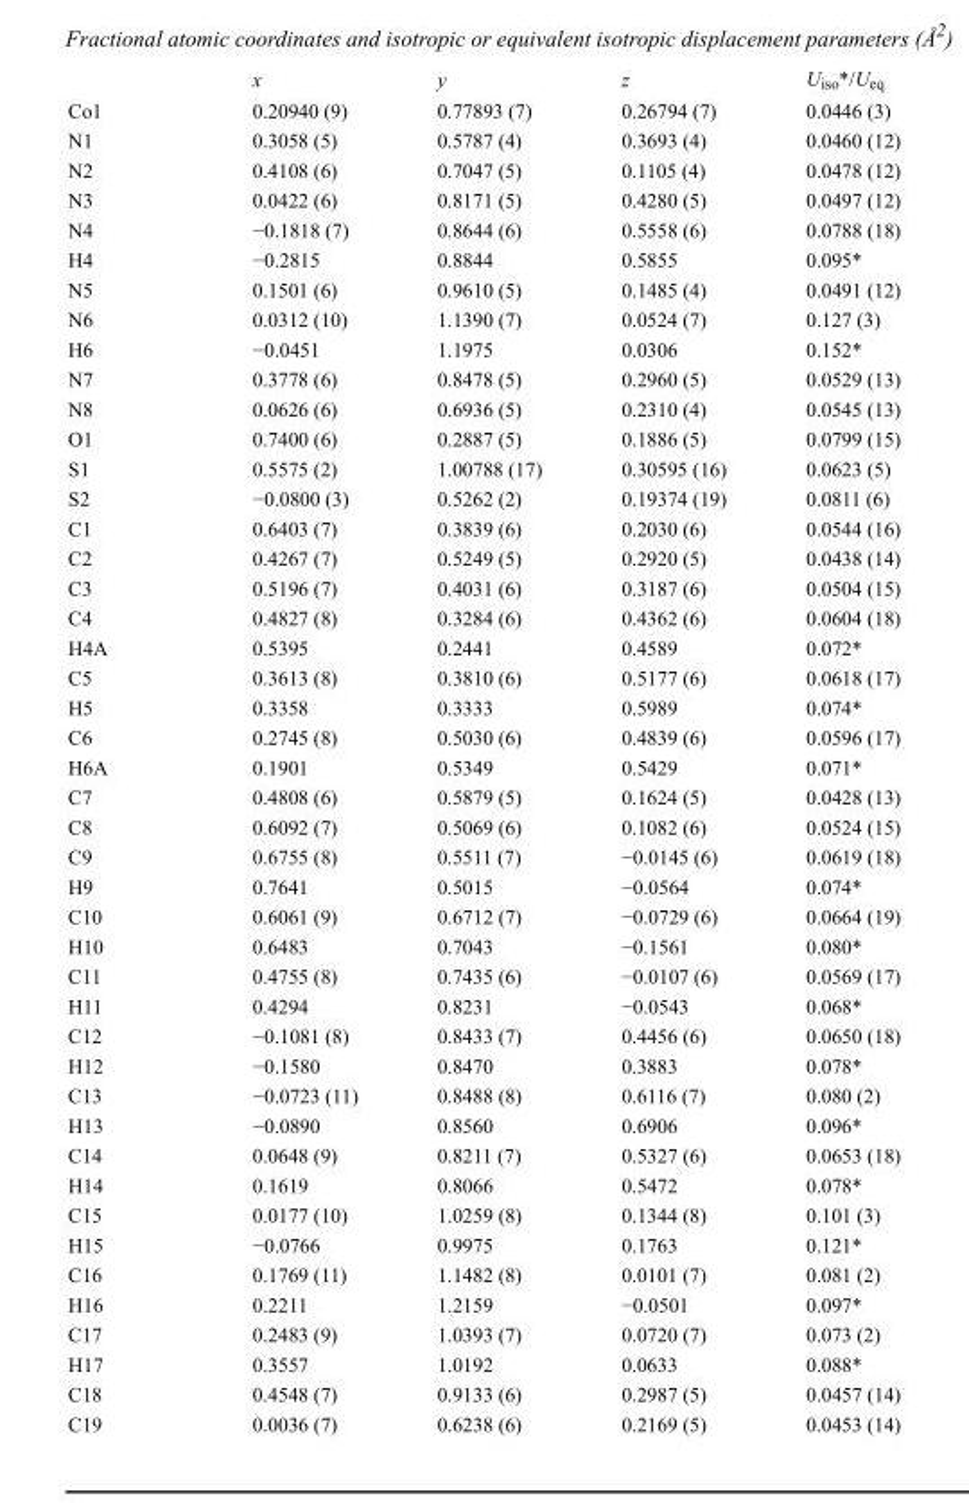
<table><thead><tr><td></td><td>x</td><td>y</td><td>z</td><td>U<sub>iso</sub>*/U<sub>eq</sub></td></tr></thead><tbody><tr><td>Co1</td><td>0.20940 (9)</td><td>0.77893 (7)</td><td>0.26794 (7)</td><td>0.0446 (3)</td></tr><tr><td>N1</td><td>0.3058 (5)</td><td>0.5787 (4)</td><td>0.3693 (4)</td><td>0.0460 (12)</td></tr><tr><td>N2</td><td>0.4108 (6)</td><td>0.7047 (5)</td><td>0.1105 (4)</td><td>0.0478 (12)</td></tr><tr><td>N3</td><td>0.0422 (6)</td><td>0.8171 (5)</td><td>0.4280 (5)</td><td>0.0497 (12)</td></tr><tr><td>N4</td><td>−0.1818 (7)</td><td>0.8644 (6)</td><td>0.5558 (6)</td><td>0.0788 (18)</td></tr><tr><td>H4</td><td>−0.2815</td><td>0.8844</td><td>0.5855</td><td>0.095*</td></tr><tr><td>N5</td><td>0.1501 (6)</td><td>0.9610 (5)</td><td>0.1485 (4)</td><td>0.0491 (12)</td></tr><tr><td>N6</td><td>0.0312 (10)</td><td>1.1390 (7)</td><td>0.0524 (7)</td><td>0.127 (3)</td></tr><tr><td>H6</td><td>−0.0451</td><td>1.1975</td><td>0.0306</td><td>0.152*</td></tr><tr><td>N7</td><td>0.3778 (6)</td><td>0.8478 (5)</td><td>0.2960 (5)</td><td>0.0529 (13)</td></tr><tr><td>N8</td><td>0.0626 (6)</td><td>0.6936 (5)</td><td>0.2310 (4)</td><td>0.0545 (13)</td></tr><tr><td>O1</td><td>0.7400 (6)</td><td>0.2887 (5)</td><td>0.1886 (5)</td><td>0.0799 (15)</td></tr><tr><td>S1</td><td>0.5575 (2)</td><td>1.00788 (17)</td><td>0.30595 (16)</td><td>0.0623 (5)</td></tr><tr><td>S2</td><td>−0.0800 (3)</td><td>0.5262 (2)</td><td>0.19374 (19)</td><td>0.0811 (6)</td></tr><tr><td>C1</td><td>0.6403 (7)</td><td>0.3839 (6)</td><td>0.2030 (6)</td><td>0.0544 (16)</td></tr><tr><td>C2</td><td>0.4267 (7)</td><td>0.5249 (5)</td><td>0.2920 (5)</td><td>0.0438 (14)</td></tr><tr><td>C3</td><td>0.5196 (7)</td><td>0.4031 (6)</td><td>0.3187 (6)</td><td>0.0504 (15)</td></tr><tr><td>C4</td><td>0.4827 (8)</td><td>0.3284 (6)</td><td>0.4362 (6)</td><td>0.0604 (18)</td></tr><tr><td>H4A</td><td>0.5395</td><td>0.2441</td><td>0.4589</td><td>0.072*</td></tr><tr><td>C5</td><td>0.3613 (8)</td><td>0.3810 (6)</td><td>0.5177 (6)</td><td>0.0618 (17)</td></tr><tr><td>H5</td><td>0.3358</td><td>0.3333</td><td>0.5989</td><td>0.074*</td></tr><tr><td>C6</td><td>0.2745 (8)</td><td>0.5030 (6)</td><td>0.4839 (6)</td><td>0.0596 (17)</td></tr><tr><td>H6A</td><td>0.1901</td><td>0.5349</td><td>0.5429</td><td>0.071*</td></tr><tr><td>C7</td><td>0.4808 (6)</td><td>0.5879 (5)</td><td>0.1624 (5)</td><td>0.0428 (13)</td></tr><tr><td>C8</td><td>0.6092 (7)</td><td>0.5069 (6)</td><td>0.1082 (6)</td><td>0.0524 (15)</td></tr><tr><td>C9</td><td>0.6755 (8)</td><td>0.5511 (7)</td><td>−0.0145 (6)</td><td>0.0619 (18)</td></tr><tr><td>H9</td><td>0.7641</td><td>0.5015</td><td>−0.0564</td><td>0.074*</td></tr><tr><td>C10</td><td>0.6061 (9)</td><td>0.6712 (7)</td><td>−0.0729 (6)</td><td>0.0664 (19)</td></tr><tr><td>H10</td><td>0.6483</td><td>0.7043</td><td>−0.1561</td><td>0.080*</td></tr><tr><td>C11</td><td>0.4755 (8)</td><td>0.7435 (6)</td><td>−0.0107 (6)</td><td>0.0569 (17)</td></tr><tr><td>H11</td><td>0.4294</td><td>0.8231</td><td>−0.0543</td><td>0.068*</td></tr><tr><td>C12</td><td>−0.1081 (8)</td><td>0.8433 (7)</td><td>0.4456 (6)</td><td>0.0650 (18)</td></tr><tr><td>H12</td><td>−0.1580</td><td>0.8470</td><td>0.3883</td><td>0.078*</td></tr><tr><td>C13</td><td>−0.0723 (11)</td><td>0.8488 (8)</td><td>0.6116 (7)</td><td>0.080 (2)</td></tr><tr><td>H13</td><td>−0.0890</td><td>0.8560</td><td>0.6906</td><td>0.096*</td></tr><tr><td>C14</td><td>0.0648 (9)</td><td>0.8211 (7)</td><td>0.5327 (6)</td><td>0.0653 (18)</td></tr><tr><td>H14</td><td>0.1619</td><td>0.8066</td><td>0.5472</td><td>0.078*</td></tr><tr><td>C15</td><td>0.0177 (10)</td><td>1.0259 (8)</td><td>0.1344 (8)</td><td>0.101 (3)</td></tr><tr><td>H15</td><td>−0.0766</td><td>0.9975</td><td>0.1763</td><td>0.121*</td></tr><tr><td>C16</td><td>0.1769 (11)</td><td>1.1482 (8)</td><td>0.0101 (7)</td><td>0.081 (2)</td></tr><tr><td>H16</td><td>0.2211</td><td>1.2159</td><td>−0.0501</td><td>0.097*</td></tr><tr><td>C17</td><td>0.2483 (9)</td><td>1.0393 (7)</td><td>0.0720 (7)</td><td>0.073 (2)</td></tr><tr><td>H17</td><td>0.3557</td><td>1.0192</td><td>0.0633</td><td>0.088*</td></tr><tr><td>C18</td><td>0.4548 (7)</td><td>0.9133 (6)</td><td>0.2987 (5)</td><td>0.0457 (14)</td></tr><tr><td>C19</td><td>0.0036 (7)</td><td>0.6238 (6)</td><td>0.2169 (5)</td><td>0.0453 (14)</td></tr></tbody></table>